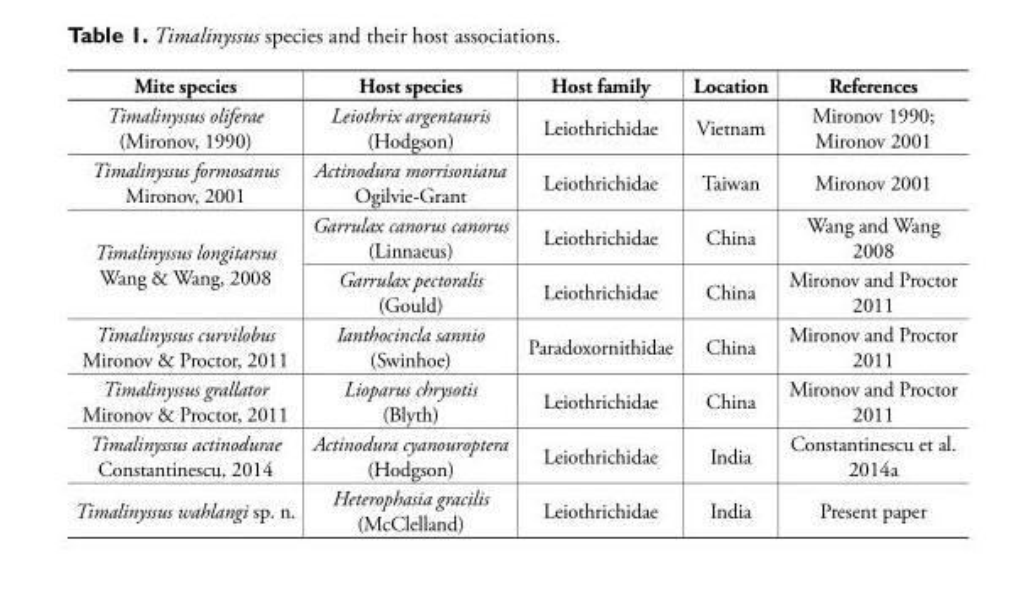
<table><thead><tr><td>Mite species</td><td>Host species</td><td>Host family</td><td>Location</td><td>References</td></tr></thead><tbody><tr><td>Timalinyssus oliferae (Mironov, 1990)</td><td>Leiothrix argentauris (Hodgson)</td><td>Leiothrichidae</td><td>Vietnam</td><td>Mironov 1990; Mironov 2001</td></tr><tr><td>Timalinyssus formosanus Mironov, 2001</td><td>Actinodura morrisoniana Ogilvie-Grant</td><td>Leiothrichidae</td><td>Taiwan</td><td>Mironov 2001</td></tr><tr><td rowspan="2">Timalinyssus longitarsus Wang &amp; Wang, 2008</td><td>Garrulax canorus canorus (Linnaeus)</td><td>Leiothrichidae</td><td>China</td><td>Wang and Wang 2008</td></tr><tr><td>Garrulax pectoralis (Gould)</td><td>Leiothrichidae</td><td>China</td><td>Mironov and Proctor 2011</td></tr><tr><td>Timalinyssus curvilobus Mironov &amp; Proctor, 2011</td><td>Ianthocincla sannio (Swinhoe)</td><td>Paradoxornithidae</td><td>China</td><td>Mironov and Proctor 2011</td></tr><tr><td>Timalinyssus grallator Mironov &amp; Proctor, 2011</td><td>Lioparus chrysotis (Blyth)</td><td>Leiothrichidae</td><td>China</td><td>Mironov and Proctor 2011</td></tr><tr><td>Timalinyssus actinodurae Constantinescu, 2014</td><td>Actinodura cyanouroptera (Hodgson)</td><td>Leiothrichidae</td><td>India</td><td>Constantinescu et al. 2014a</td></tr><tr><td>Timalinyssus wahlangi sp. n.</td><td>Heterophasia gracilis (McClelland)</td><td>Leiothrichidae</td><td>India</td><td>Present paper</td></tr></tbody></table>